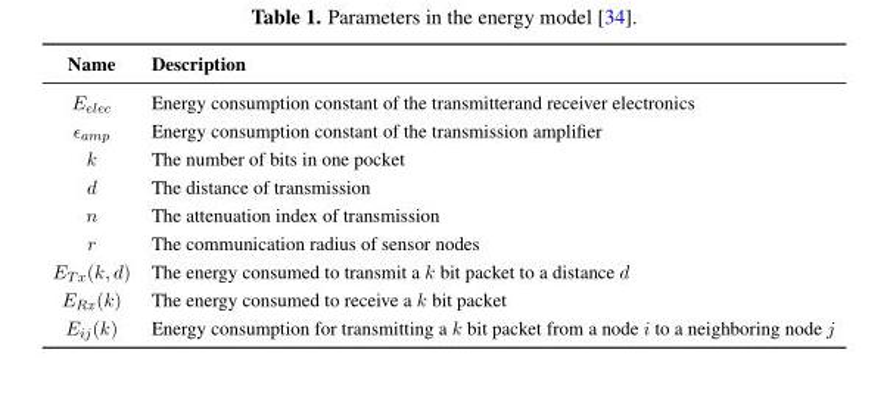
<table><thead><tr><td>Name</td><td>Description</td></tr></thead><tbody><tr><td>E<sub>elec</sub></td><td>Energy consumption constant of the transmitterand receiver electronics</td></tr><tr><td>ϵ<sub>amp</sub></td><td>Energy consumption constant of the transmission amplifier</td></tr><tr><td>k</td><td>The number of bits in one pocket</td></tr><tr><td>d</td><td>The distance of transmission</td></tr><tr><td>n</td><td>The attenuation index of transmission</td></tr><tr><td>r</td><td>The communication radius of sensor nodes</td></tr><tr><td>E<sub>Tx</sub>(k, d)</td><td>The energy consumed to transmit a k bit packet to a distance d</td></tr><tr><td>E<sub>Rx</sub>(k)</td><td>The energy consumed to receive a k bit packet</td></tr><tr><td>E<sub>ij</sub>(k)</td><td>Energy consumption for transmitting a k bit packet from a node i to a neighboring node j</td></tr></tbody></table>